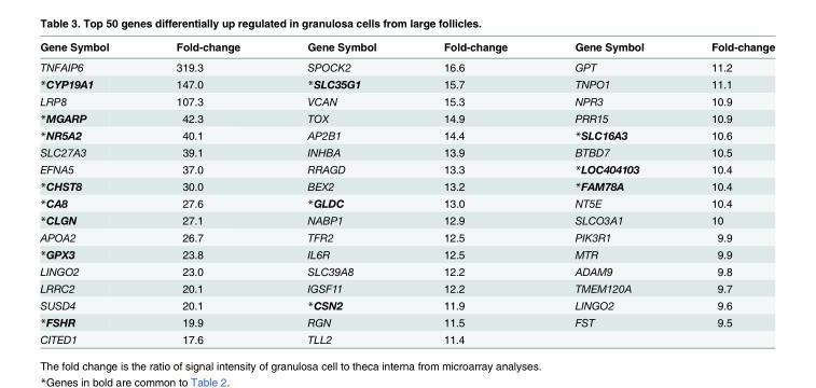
<table><thead><tr><td>Gene Symbol</td><td>Fold-change</td><td>Gene Symbol</td><td>Fold-change</td><td>Gene Symbol</td><td>Fold-change</td></tr></thead><tbody><tr><td>TNFAIP6</td><td>319.3</td><td>SPOCK2</td><td>16.6</td><td>GPT</td><td>11.2</td></tr><tr><td>*CYP19A1</td><td>147.0</td><td>*SLC35G1</td><td>15.7</td><td>TNPO1</td><td>11.1</td></tr><tr><td>LRP8</td><td>107.3</td><td>VCAN</td><td>15.3</td><td>NPR3</td><td>10.9</td></tr><tr><td>*MGARP</td><td>42.3</td><td>TOX</td><td>14.9</td><td>PRR15</td><td>10.9</td></tr><tr><td>*NR5A2</td><td>40.1</td><td>AP2B1</td><td>14.4</td><td>*SLC16A3</td><td>10.6</td></tr><tr><td>SLC27A3</td><td>39.1</td><td>INHBA</td><td>13.9</td><td>BTBD7</td><td>10.5</td></tr><tr><td>EFNA5</td><td>37.0</td><td>RRAGD</td><td>13.3</td><td>*LOC404103</td><td>10.4</td></tr><tr><td>*CHST8</td><td>30.0</td><td>BEX2</td><td>13.2</td><td>*FAM78A</td><td>10.4</td></tr><tr><td>*CA8</td><td>27.6</td><td>*GLDC</td><td>13.0</td><td>NT5E</td><td>10.4</td></tr><tr><td>*CLGN</td><td>27.1</td><td>NABP1</td><td>12.9</td><td>SLCO3A1</td><td>10</td></tr><tr><td>APOA2</td><td>26.7</td><td>TFR2</td><td>12.5</td><td>PIK3R1</td><td>9.9</td></tr><tr><td>*GPX3</td><td>23.8</td><td>IL6R</td><td>12.5</td><td>MTR</td><td>9.9</td></tr><tr><td>LINGO2</td><td>23.0</td><td>SLC39A8</td><td>12.2</td><td>ADAM9</td><td>9.8</td></tr><tr><td>LRRC2</td><td>20.1</td><td>IGSF11</td><td>12.2</td><td>TMEM120A</td><td>9.7</td></tr><tr><td>SUSD4</td><td>20.1</td><td>*CSN2</td><td>11.9</td><td>LINGO2</td><td>9.6</td></tr><tr><td>*FSHR</td><td>19.9</td><td>RGN</td><td>11.5</td><td>FST</td><td>9.5</td></tr><tr><td>CITED1</td><td>17.6</td><td>TLL2</td><td>11.4</td><td></td><td></td></tr></tbody></table>